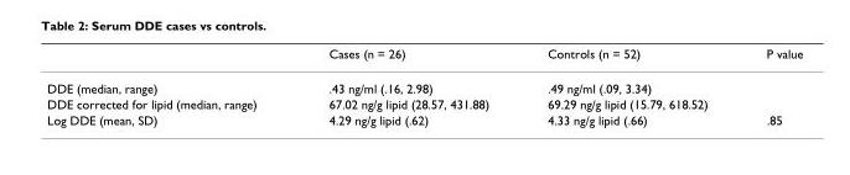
<table><thead><tr><td></td><td>Cases (n = 26)</td><td>Controls (n = 52)</td><td>P value</td></tr></thead><tbody><tr><td>DDE (median, range)</td><td>.43 ng/ml (.16, 2.98)</td><td>.49 ng/ml (.09, 3.34)</td><td></td></tr><tr><td>DDE corrected for lipid (median, range)</td><td>67.02 ng/g lipid (28.57, 431.88)</td><td>69.29 ng/g lipid (15.79, 618.52)</td><td></td></tr><tr><td>Log DDE (mean, SD)</td><td>4.29 ng/g lipid (.62)</td><td>4.33 ng/g lipid (.66)</td><td>.85</td></tr></tbody></table>